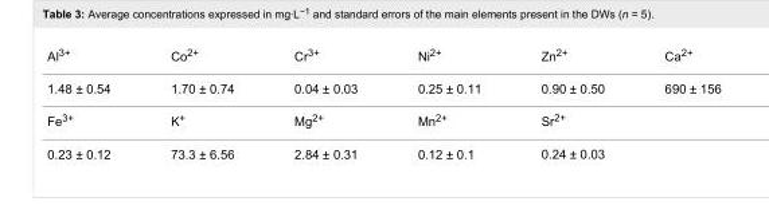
<table><tbody><tr><td>Al<sup>3+</sup></td><td>Co<sup>2+</sup></td><td>Cr<sup>3+</sup></td><td>Ni<sup>2+</sup></td><td>Zn<sup>2+</sup></td><td>Ca<sup>2+</sup></td></tr><tr><td>1.48 ± 0.54</td><td>1.70 ± 0.74</td><td>0.04 ± 0.03</td><td>0.25 ± 0.11</td><td>0.90 ± 0.50</td><td>690 ± 156</td></tr><tr><td>Fe<sup>3+</sup></td><td>K<sup>+</sup></td><td>Mg<sup>2+</sup></td><td>Mn<sup>2+</sup></td><td>Sr<sup>2+</sup></td><td></td></tr><tr><td>0.23 ± 0.12</td><td>73.3 ± 6.56</td><td>2.84 ± 0.31</td><td>0.12 ± 0.1</td><td>0.24 ± 0.03</td><td></td></tr></tbody></table>